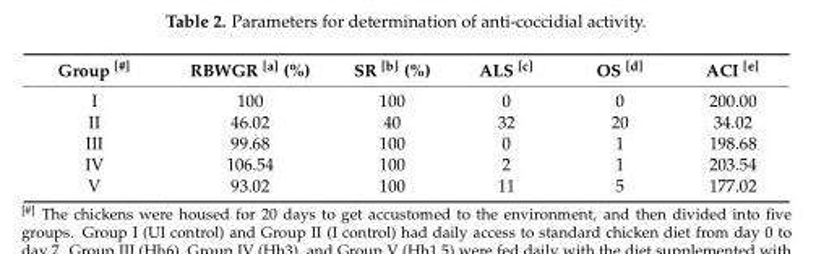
<table><thead><tr><td>Group [#]</td><td>RBWGR [a] (%)</td><td>SR [b] (%)</td><td>ALS [c]</td><td>OS [d]</td><td>ACI [e]</td></tr></thead><tbody><tr><td>I</td><td>100</td><td>100</td><td>0</td><td>0</td><td>200.00</td></tr><tr><td>II</td><td>46.02</td><td>40</td><td>32</td><td>20</td><td>34.02</td></tr><tr><td>III</td><td>99.68</td><td>100</td><td>0</td><td>1</td><td>198.68</td></tr><tr><td>IV</td><td>106.54</td><td>100</td><td>2</td><td>1</td><td>203.54</td></tr><tr><td>V</td><td>93.02</td><td>100</td><td>11</td><td>5</td><td>177.02</td></tr></tbody></table>